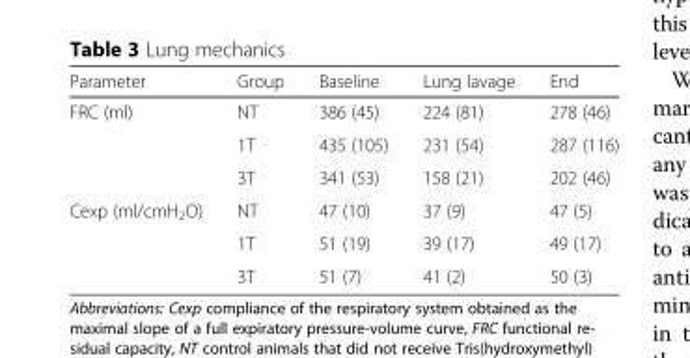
<table><thead><tr><td>Parameter</td><td>Group</td><td>Baseline</td><td>Lung lavage</td><td>End</td></tr></thead><tbody><tr><td rowspan="3">FRC (ml)</td><td>NT</td><td>386 (45)</td><td>224 (81)</td><td>278 (46)</td></tr><tr><td>1T</td><td>435 (105)</td><td>231 (54)</td><td>287 (116)</td></tr><tr><td>3T</td><td>341 (53)</td><td>158 (21)</td><td>202 (46)</td></tr><tr><td rowspan="3">Cexp (ml/cmH<sub>2</sub>O)</td><td>NT</td><td>47 (10)</td><td>37 (9)</td><td>47 (5)</td></tr><tr><td>1T</td><td>51 (19)</td><td>39 (17)</td><td>49 (17)</td></tr><tr><td>3T</td><td>51 (7)</td><td>41 (2)</td><td>50 (3)</td></tr></tbody></table>